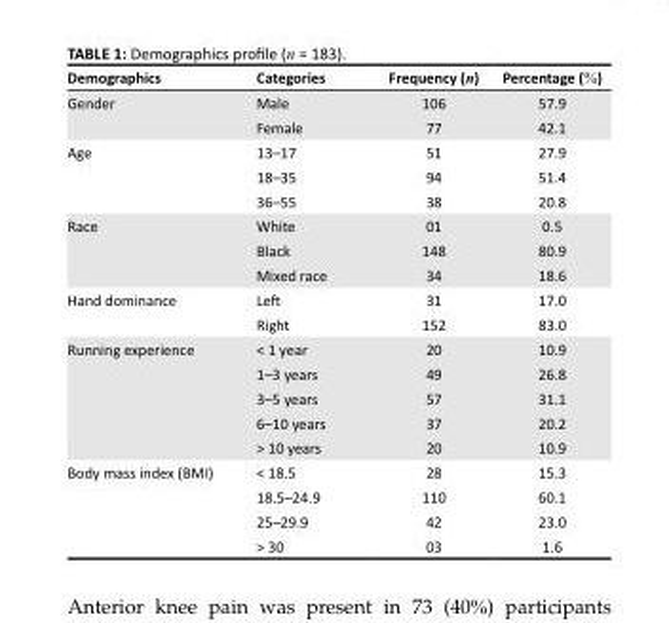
<table><thead><tr><td>Demographics</td><td>Categories</td><td>Frequency (n)</td><td>Percentage (%)</td></tr></thead><tbody><tr><td rowspan="2">Gender</td><td>Male</td><td>106</td><td>57.9</td></tr><tr><td>Female</td><td>77</td><td>42.1</td></tr><tr><td rowspan="3">Age</td><td>13–17</td><td>51</td><td>27.9</td></tr><tr><td>18–35</td><td>94</td><td>51.4</td></tr><tr><td>36–55</td><td>38</td><td>20.8</td></tr><tr><td rowspan="3">Race</td><td>White</td><td>01</td><td>0.5</td></tr><tr><td>Black</td><td>148</td><td>80.9</td></tr><tr><td>Mixed race</td><td>34</td><td>18.6</td></tr><tr><td rowspan="2">Hand dominance</td><td>Left</td><td>31</td><td>17.0</td></tr><tr><td>Right</td><td>152</td><td>83.0</td></tr><tr><td rowspan="5">Running experience</td><td>&lt; 1 year</td><td>20</td><td>10.9</td></tr><tr><td>1–3 years</td><td>49</td><td>26.8</td></tr><tr><td>3–5 years</td><td>57</td><td>31.1</td></tr><tr><td>6–10 years</td><td>37</td><td>20.2</td></tr><tr><td>&gt; 10 years</td><td>20</td><td>10.9</td></tr><tr><td rowspan="4">Body mass index (BMI)</td><td>&lt; 18.5</td><td>28</td><td>15.3</td></tr><tr><td>18.5–24.9</td><td>110</td><td>60.1</td></tr><tr><td>25–29.9</td><td>42</td><td>23.0</td></tr><tr><td>&gt; 30</td><td>03</td><td>1.6</td></tr></tbody></table>